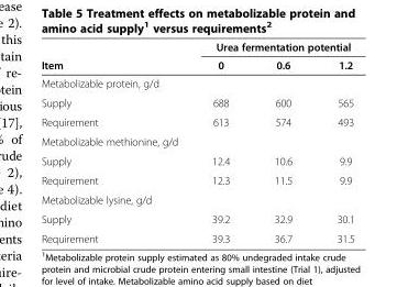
<table><thead><tr><td rowspan="2">Item</td><td colspan="3">Urea fermentation potential</td></tr><tr><td>0</td><td>0.6</td><td>1.2</td></tr></thead><tbody><tr><td colspan="4">Metabolizable protein, g/d</td></tr><tr><td>Supply</td><td>688</td><td>600</td><td>565</td></tr><tr><td>Requirement</td><td>613</td><td>574</td><td>493</td></tr><tr><td colspan="4">Metabolizable methionine, g/d</td></tr><tr><td>Supply</td><td>12.4</td><td>10.6</td><td>9.9</td></tr><tr><td>Requirement</td><td>12.3</td><td>11.5</td><td>9.9</td></tr><tr><td colspan="4">Metabolizable lysine, g/d</td></tr><tr><td>Supply</td><td>39.2</td><td>32.9</td><td>30.1</td></tr><tr><td>Requirement</td><td>39.3</td><td>36.7</td><td>31.5</td></tr></tbody></table>